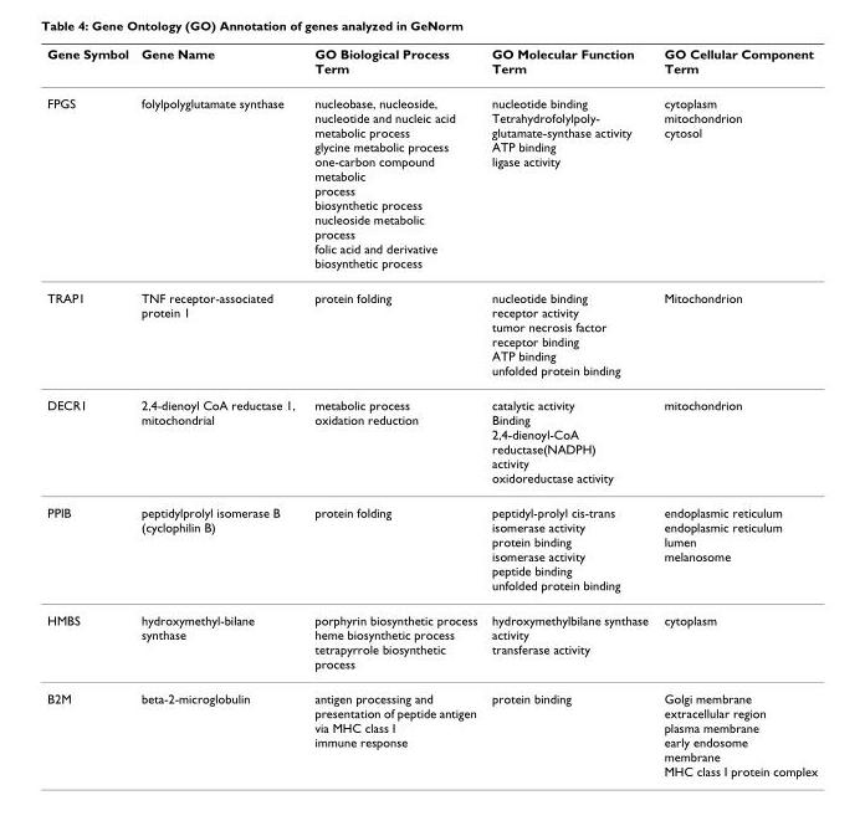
<table><thead><tr><td>Gene Symbol</td><td>Gene Name</td><td>GO Biological Process Term</td><td>GO Molecular Function Term</td><td>GO Cellular Component Term</td></tr></thead><tbody><tr><td>FPGS</td><td>folylpolyglutamate synthase</td><td>nucleobase, nucleoside, nucleotide and nucleic acid metabolic process glycine metabolic process one-carbon compound metabolic process biosynthetic process nucleoside metabolic process folic acid and derivative biosynthetic process</td><td>nucleotide binding Tetrahydrofolylpoly- glutamate-synthase activity ATP binding ligase activity</td><td>cytoplasm mitochondrion cytosol</td></tr><tr><td>TRAP1</td><td>TNF receptor-associated protein 1</td><td>protein folding</td><td>nucleotide binding receptor activity tumor necrosis factor receptor binding ATP binding unfolded protein binding</td><td>Mitochondrion</td></tr><tr><td>DECR1</td><td>2,4-dienoyl CoA reductase 1, mitochondrial</td><td>metabolic process oxidation reduction</td><td>catalytic activity Binding 2,4-dienoyl-CoA reductase(NADPH) activity oxidoreductase activity</td><td>mitochondrion</td></tr><tr><td>PPIB</td><td>peptidylprolyl isomerase B (cyclophilin B)</td><td>protein folding</td><td>peptidyl-prolyl cis-trans isomerase activity protein binding isomerase activity peptide binding unfolded protein binding</td><td>endoplasmic reticulum endoplasmic reticulum lumen melanosome</td></tr><tr><td>HMBS</td><td>hydroxymethyl-bilane synthase</td><td>porphyrin biosynthetic process heme biosynthetic process tetrapyrrole biosynthetic process</td><td>hydroxymethylbilane synthase activity transferase activity</td><td>cytoplasm</td></tr><tr><td>B2M</td><td>beta-2-microglobulin</td><td>antigen processing and presentation of peptide antigen via MHC class I immune response</td><td>protein binding</td><td>Golgi membrane extracellular region plasma membrane early endosome membrane MHC class I protein complex</td></tr></tbody></table>